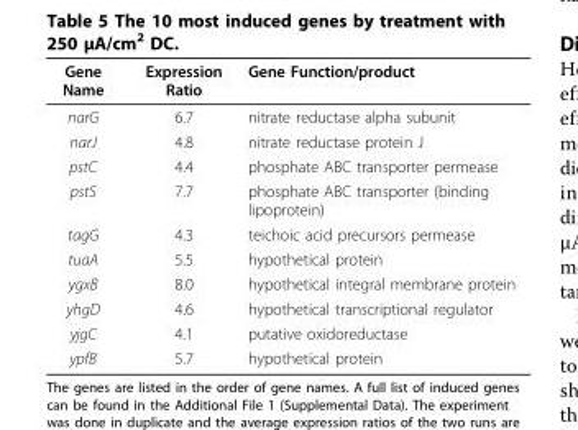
<table><thead><tr><td>Gene Name</td><td>Expression Ratio</td><td>Gene Function/product</td></tr></thead><tbody><tr><td>narG</td><td>6.7</td><td>nitrate reductase alpha subunit</td></tr><tr><td>narJ</td><td>4.8</td><td>nitrate reductase protein J</td></tr><tr><td>pstC</td><td>4.4</td><td>phosphate ABC transporter permease</td></tr><tr><td>pstS</td><td>7.7</td><td>phosphate ABC transporter (binding lipoprotein)</td></tr><tr><td>tagG</td><td>4.3</td><td>teichoic acid precursors permease</td></tr><tr><td>tuaA</td><td>5.5</td><td>hypothetical protein</td></tr><tr><td>ygxB</td><td>8.0</td><td>hypothetical integral membrane protein</td></tr><tr><td>yhgD</td><td>4.6</td><td>hypothetical transcriptional regulator</td></tr><tr><td>yjgC</td><td>4.1</td><td>putative oxidoreductase</td></tr><tr><td>ypfB</td><td>5.7</td><td>hypothetical protein</td></tr></tbody></table>